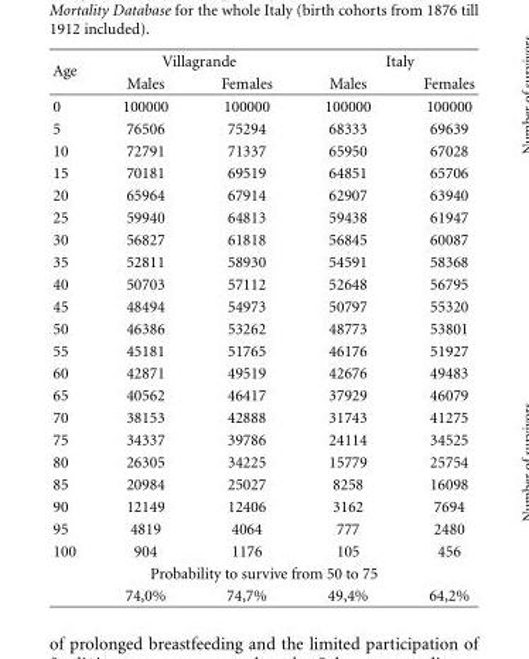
<table><tbody><tr><td rowspan="2">Age</td><td colspan="2">Villagrande</td><td colspan="2">Italy</td></tr><tr><td>Males</td><td>Females</td><td>Males</td><td>Females</td></tr><tr><td>0</td><td>100000</td><td>100000</td><td>100000</td><td>100000</td></tr><tr><td>5</td><td>76506</td><td>75294</td><td>68333</td><td>69639</td></tr><tr><td>10</td><td>72791</td><td>71337</td><td>65950</td><td>67028</td></tr><tr><td>15</td><td>70181</td><td>69519</td><td>64851</td><td>65706</td></tr><tr><td>20</td><td>65964</td><td>67914</td><td>62907</td><td>63940</td></tr><tr><td>25</td><td>59940</td><td>64813</td><td>59438</td><td>61947</td></tr><tr><td>30</td><td>56827</td><td>61818</td><td>56845</td><td>60087</td></tr><tr><td>35</td><td>52811</td><td>58930</td><td>54591</td><td>58368</td></tr><tr><td>40</td><td>50703</td><td>57112</td><td>52648</td><td>56795</td></tr><tr><td>45</td><td>48494</td><td>54973</td><td>50797</td><td>55320</td></tr><tr><td>50</td><td>46386</td><td>53262</td><td>48773</td><td>53801</td></tr><tr><td>55</td><td>45181</td><td>51765</td><td>46176</td><td>51927</td></tr><tr><td>60</td><td>42871</td><td>49519</td><td>42676</td><td>49483</td></tr><tr><td>65</td><td>40562</td><td>46417</td><td>37929</td><td>46079</td></tr><tr><td>70</td><td>38153</td><td>42888</td><td>31743</td><td>41275</td></tr><tr><td>75</td><td>34337</td><td>39786</td><td>24114</td><td>34525</td></tr><tr><td>80</td><td>26305</td><td>34225</td><td>15779</td><td>25754</td></tr><tr><td>85</td><td>20984</td><td>25027</td><td>8258</td><td>16098</td></tr><tr><td>90</td><td>12149</td><td>12406</td><td>3162</td><td>7694</td></tr><tr><td>95</td><td>4819</td><td>4064</td><td>777</td><td>2480</td></tr><tr><td>100</td><td>904</td><td>1176</td><td>105</td><td>456</td></tr><tr><td colspan="5">Probability to survive from 50 to 75</td></tr><tr><td></td><td>74,0%</td><td>74,7%</td><td>49,4%</td><td>64,2%</td></tr></tbody></table>